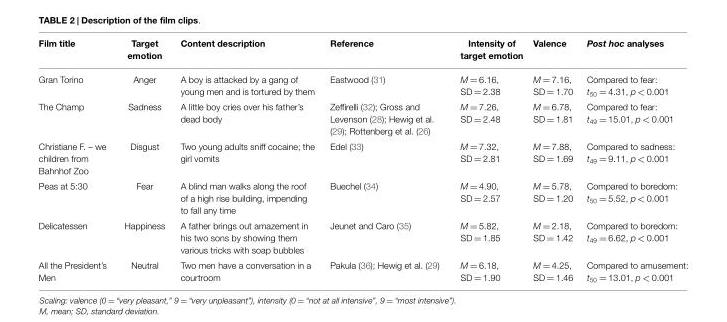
<table><thead><tr><td>Film title</td><td>Target emotion</td><td>Content description</td><td>Reference</td><td>Intensity of target emotion</td><td>Valence</td><td>Post hoc analyses</td></tr></thead><tbody><tr><td>Gran Torino</td><td>Anger</td><td>A boy is attacked by a gang of young men and is tortured by them</td><td>Eastwood (31)</td><td>M = 6.16, SD = 2.38</td><td>M = 7.16, SD = 1.70</td><td>Compared to fear: t<sub>50</sub> = 4.31, p &lt; 0.001</td></tr><tr><td>The Champ</td><td>Sadness</td><td>A little boy cries over his father’s dead body</td><td>Zeffirelli (32); Gross and Levenson (28); Hewig et al. (29); Rottenberg et al. (26)</td><td>M = 7.26, SD = 2.48</td><td>M = 6.78, SD = 1.81</td><td>Compared to fear: t<sub>49</sub> = 15.01, p &lt; 0.001</td></tr><tr><td>Christiane F. – we children from Bahnhof Zoo</td><td>Disgust</td><td>Two young adults sniff cocaine; the girl vomits</td><td>Edel (33)</td><td>M = 7.32, SD = 2.81</td><td>M = 7.88, SD = 1.69</td><td>Compared to sadness: t<sub>49</sub> = 9.11, p &lt; 0.001</td></tr><tr><td>Peas at 5:30</td><td>Fear</td><td>A blind man walks along the roof of a high rise building, impending to fall any time</td><td>Buechel (34)</td><td>M = 4.90, SD = 2.57</td><td>M = 5.78, SD = 1.20</td><td>Compared to boredom: t<sub>50</sub> = 5.52, p &lt; 0.001</td></tr><tr><td>Delicatessen</td><td>Happiness</td><td>A father brings out amazement in his two sons by showing them various tricks with soap bubbles</td><td>Jeunet and Caro (35)</td><td>M = 5.82, SD = 1.85</td><td>M = 2.18, SD = 1.42</td><td>Compared to boredom: t<sub>49</sub> = 6.62, p &lt; 0.001</td></tr><tr><td>All the President’s Men</td><td>Neutral</td><td>Two men have a conversation in a courtroom</td><td>Pakula (36); Hewig et al. (29)</td><td>M = 6.18, SD = 1.90</td><td>M = 4.25, SD = 1.46</td><td>Compared to amusement: t<sub>50</sub> = 13.01, p &lt; 0.001</td></tr></tbody></table>